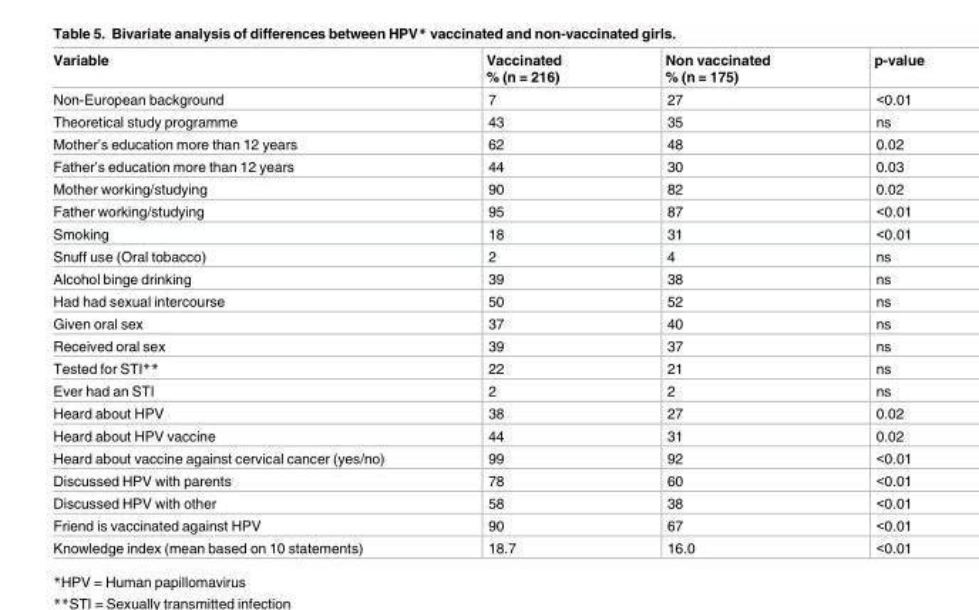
<table><thead><tr><td>Variable</td><td>Vaccinated % (n = 216)</td><td>Non vaccinated % (n = 175)</td><td>p-value</td></tr></thead><tbody><tr><td>Non-European background</td><td>7</td><td>27</td><td>&lt;0.01</td></tr><tr><td>Theoretical study programme</td><td>43</td><td>35</td><td>ns</td></tr><tr><td>Mother’s education more than 12 years</td><td>62</td><td>48</td><td>0.02</td></tr><tr><td>Father’s education more than 12 years</td><td>44</td><td>30</td><td>0.03</td></tr><tr><td>Mother working/studying</td><td>90</td><td>82</td><td>0.02</td></tr><tr><td>Father working/studying</td><td>95</td><td>87</td><td>&lt;0.01</td></tr><tr><td>Smoking</td><td>18</td><td>31</td><td>&lt;0.01</td></tr><tr><td>Snuff use (Oral tobacco)</td><td>2</td><td>4</td><td>ns</td></tr><tr><td>Alcohol binge drinking</td><td>39</td><td>38</td><td>ns</td></tr><tr><td>Had had sexual intercourse</td><td>50</td><td>52</td><td>ns</td></tr><tr><td>Given oral sex</td><td>37</td><td>40</td><td>ns</td></tr><tr><td>Received oral sex</td><td>39</td><td>37</td><td>ns</td></tr><tr><td>Tested for STI**</td><td>22</td><td>21</td><td>ns</td></tr><tr><td>Ever had an STI</td><td>2</td><td>2</td><td>ns</td></tr><tr><td>Heard about HPV</td><td>38</td><td>27</td><td>0.02</td></tr><tr><td>Heard about HPV vaccine</td><td>44</td><td>31</td><td>0.02</td></tr><tr><td>Heard about vaccine against cervical cancer (yes/no)</td><td>99</td><td>92</td><td>&lt;0.01</td></tr><tr><td>Discussed HPV with parents</td><td>78</td><td>60</td><td>&lt;0.01</td></tr><tr><td>Discussed HPV with other</td><td>58</td><td>38</td><td>&lt;0.01</td></tr><tr><td>Friend is vaccinated against HPV</td><td>90</td><td>67</td><td>&lt;0.01</td></tr><tr><td>Knowledge index (mean based on 10 statements)</td><td>18.7</td><td>16.0</td><td>&lt;0.01</td></tr></tbody></table>